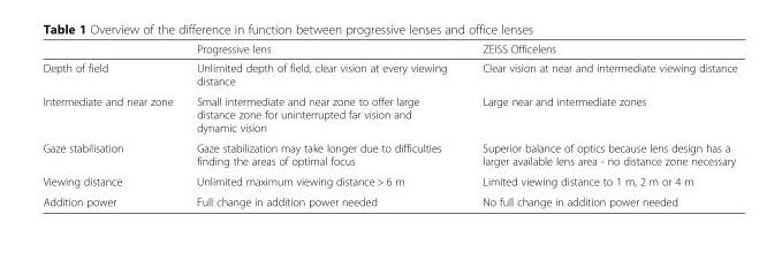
<table><thead><tr><td></td><td>Progressive lens</td><td>ZEISS Officelens</td></tr></thead><tbody><tr><td>Depth of field</td><td>Unlimited depth of field, clear vision at every viewing distance</td><td>Clear vision at near and intermediate viewing distance</td></tr><tr><td>Intermediate and near zone</td><td>Small intermediate and near zone to offer large distance zone for uninterrupted far vision and dynamic vision</td><td>Large near and intermediate zones</td></tr><tr><td>Gaze stabilisation</td><td>Gaze stabilization may take longer due to difficulties finding the areas of optimal focus</td><td>Superior balance of optics because lens design has a larger available lens area - no distance zone necessary</td></tr><tr><td>Viewing distance</td><td>Unlimited maximum viewing distance &gt; 6 m</td><td>Limited viewing distance to 1 m, 2 m or 4 m</td></tr><tr><td>Addition power</td><td>Full change in addition power needed</td><td>No full change in addition power needed</td></tr></tbody></table>